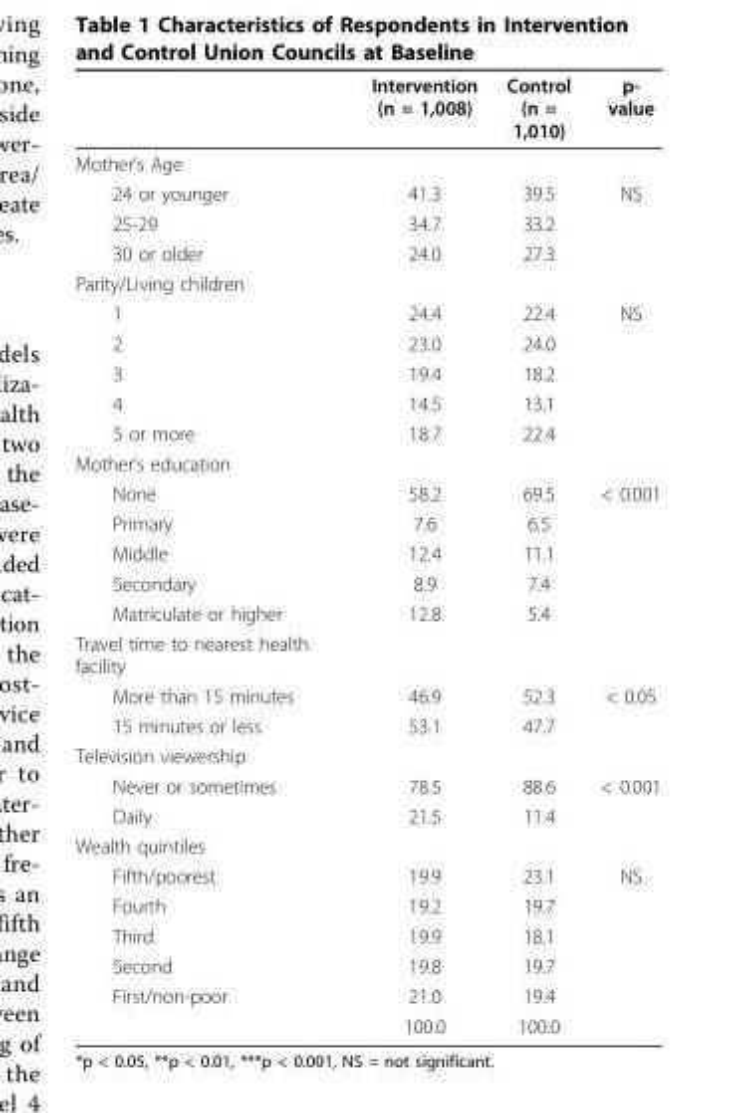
<table><thead><tr><td></td><td>Intervention (n = 1,008)</td><td>Control (n = 1,010)</td><td>p- value</td></tr></thead><tbody><tr><td colspan="4">Mother’s Age</td></tr><tr><td>24 or younger</td><td>41.3</td><td>39.5</td><td>NS</td></tr><tr><td>25-29</td><td>34.7</td><td>33.2</td><td></td></tr><tr><td>30 or older</td><td>24.0</td><td>27.3</td><td></td></tr><tr><td colspan="4">Parity/Living children</td></tr><tr><td>1</td><td>24.4</td><td>22.4</td><td>NS</td></tr><tr><td>2</td><td>23.0</td><td>24.0</td><td></td></tr><tr><td>3</td><td>19.4</td><td>18.2</td><td></td></tr><tr><td>4</td><td>14.5</td><td>13.1</td><td></td></tr><tr><td>5 or more</td><td>18.7</td><td>22.4</td><td></td></tr><tr><td colspan="4">Mother’s education</td></tr><tr><td>None</td><td>58.2</td><td>69.5</td><td>&lt; 0.001</td></tr><tr><td>Primary</td><td>7.6</td><td>6.5</td><td></td></tr><tr><td>Middle</td><td>12.4</td><td>11.1</td><td></td></tr><tr><td>Secondary</td><td>8.9</td><td>7.4</td><td></td></tr><tr><td>Matriculate or higher</td><td>12.8</td><td>5.4</td><td></td></tr><tr><td colspan="4">Travel time to nearest health facility</td></tr><tr><td>More than 15 minutes</td><td>46.9</td><td>52.3</td><td>&lt; 0.05</td></tr><tr><td>15 minutes or less</td><td>53.1</td><td>47.7</td><td></td></tr><tr><td colspan="4">Television viewership</td></tr><tr><td>Never or sometimes</td><td>78.5</td><td>88.6</td><td>&lt; 0.001</td></tr><tr><td>Daily</td><td>21.5</td><td>11.4</td><td></td></tr><tr><td colspan="4">Wealth quintiles</td></tr><tr><td>Fifth/poorest</td><td>19.9</td><td>23.1</td><td>NS</td></tr><tr><td>Fourth</td><td>19.2</td><td>19.7</td><td></td></tr><tr><td>Third</td><td>19.9</td><td>18.1</td><td></td></tr><tr><td>Second</td><td>19.8</td><td>19.7</td><td></td></tr><tr><td rowspan="2">First/non-poor</td><td>21.0</td><td>19.4</td><td></td></tr><tr><td>100.0</td><td>100.0</td><td></td></tr></tbody></table>